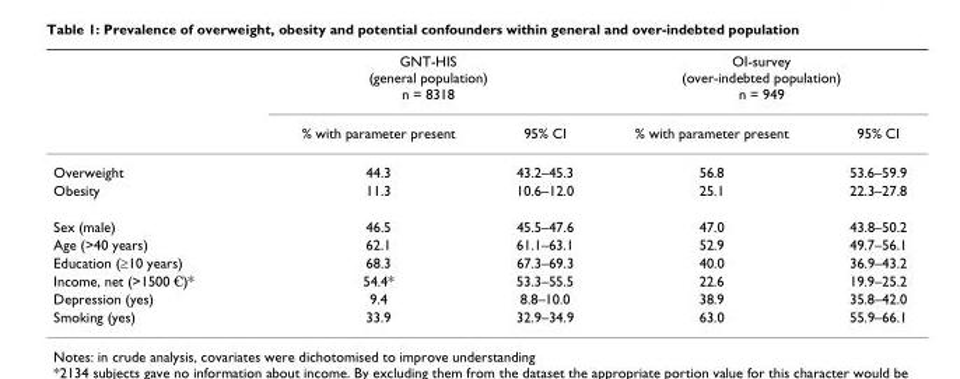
<table><thead><tr><td rowspan="2"></td><td colspan="2">GNT-HIS (general population) n = 8318</td><td colspan="2">OI-survey (over-indebted population) n = 949</td></tr><tr><td>% with parameter present</td><td>95% CI</td><td>% with parameter present</td><td>95% CI</td></tr></thead><tbody><tr><td>Overweight</td><td>44.3</td><td>43.2–45.3</td><td>56.8</td><td>53.6–59.9</td></tr><tr><td>Obesity</td><td>11.3</td><td>10.6–12.0</td><td>25.1</td><td>22.3–27.8</td></tr><tr><td>Sex (male)</td><td>46.5</td><td>45.5–47.6</td><td>47.0</td><td>43.8–50.2</td></tr><tr><td>Age (&gt;40 years)</td><td>62.1</td><td>61.1–63.1</td><td>52.9</td><td>49.7–56.1</td></tr><tr><td>Education (≥10 years)</td><td>68.3</td><td>67.3–69.3</td><td>40.0</td><td>36.9–43.2</td></tr><tr><td>Income, net (&gt;1500 €)*</td><td>54.4*</td><td>53.3–55.5</td><td>22.6</td><td>19.9–25.2</td></tr><tr><td>Depression (yes)</td><td>9.4</td><td>8.8–10.0</td><td>38.9</td><td>35.8–42.0</td></tr><tr><td>Smoking (yes)</td><td>33.9</td><td>32.9–34.9</td><td>63.0</td><td>55.9–66.1</td></tr></tbody></table>